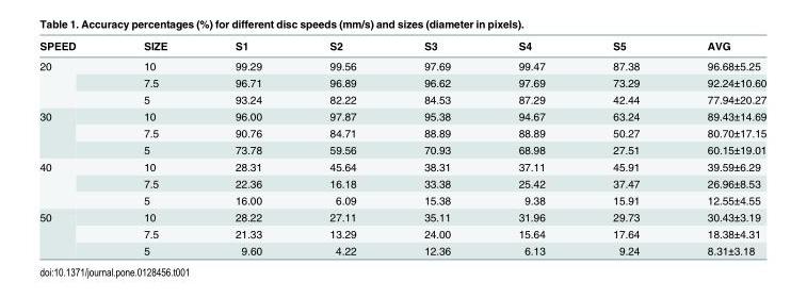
<table><thead><tr><td>SPEED</td><td>SIZE</td><td>S1</td><td>S2</td><td>S3</td><td>S4</td><td>S5</td><td>AVG</td></tr></thead><tbody><tr><td rowspan="3">20</td><td>10</td><td>99.29</td><td>99.56</td><td>97.69</td><td>99.47</td><td>87.38</td><td>96.68±5.25</td></tr><tr><td>7.5</td><td>96.71</td><td>96.89</td><td>96.62</td><td>97.69</td><td>73.29</td><td>92.24±10.60</td></tr><tr><td>5</td><td>93.24</td><td>82.22</td><td>84.53</td><td>87.29</td><td>42.44</td><td>77.94±20.27</td></tr><tr><td rowspan="3">30</td><td>10</td><td>96.00</td><td>97.87</td><td>95.38</td><td>94.67</td><td>63.24</td><td>89.43±14.69</td></tr><tr><td>7.5</td><td>90.76</td><td>84.71</td><td>88.89</td><td>88.89</td><td>50.27</td><td>80.70±17.15</td></tr><tr><td>5</td><td>73.78</td><td>59.56</td><td>70.93</td><td>68.98</td><td>27.51</td><td>60.15±19.01</td></tr><tr><td rowspan="3">40</td><td>10</td><td>28.31</td><td>45.64</td><td>38.31</td><td>37.11</td><td>45.91</td><td>39.59±6.29</td></tr><tr><td>7.5</td><td>22.36</td><td>16.18</td><td>33.38</td><td>25.42</td><td>37.47</td><td>26.96±8.53</td></tr><tr><td>5</td><td>16.00</td><td>6.09</td><td>15.38</td><td>9.38</td><td>15.91</td><td>12.55±4.55</td></tr><tr><td rowspan="3">50</td><td>10</td><td>28.22</td><td>27.11</td><td>35.11</td><td>31.96</td><td>29.73</td><td>30.43±3.19</td></tr><tr><td>7.5</td><td>21.33</td><td>13.29</td><td>24.00</td><td>15.64</td><td>17.64</td><td>18.38±4.31</td></tr><tr><td>5</td><td>9.60</td><td>4.22</td><td>12.36</td><td>6.13</td><td>9.24</td><td>8.31±3.18</td></tr></tbody></table>